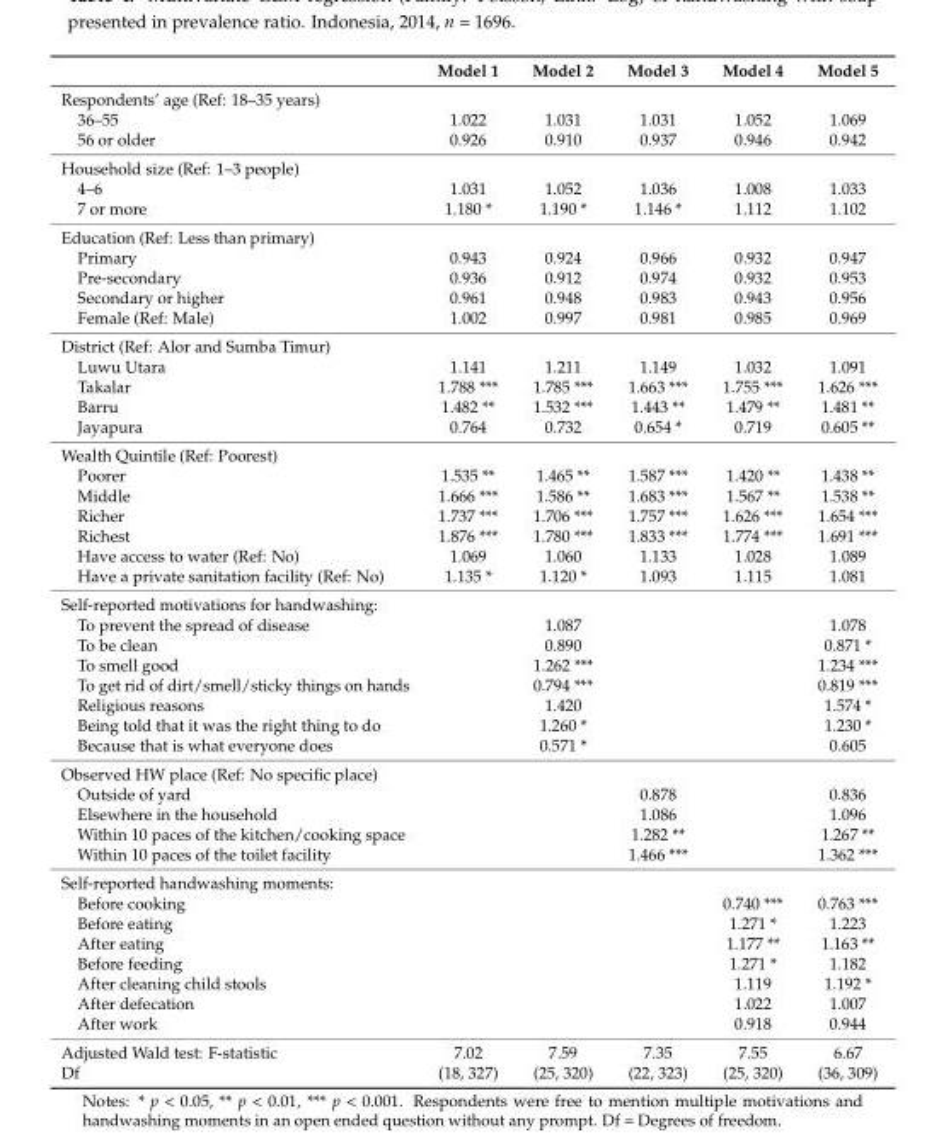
<table><thead><tr><td></td><td>Model 1</td><td>Model 2</td><td>Model 3</td><td>Model 4</td><td>Model 5</td></tr></thead><tbody><tr><td colspan="6">Respondents’ age (Ref: 18–35 years)</td></tr><tr><td>36–55</td><td>1.022</td><td>1.031</td><td>1.031</td><td>1.052</td><td>1.069</td></tr><tr><td>56 or older</td><td>0.926</td><td>0.910</td><td>0.937</td><td>0.946</td><td>0.942</td></tr><tr><td colspan="6">Household size (Ref: 1–3 people)</td></tr><tr><td>4–6</td><td>1.031</td><td>1.052</td><td>1.036</td><td>1.008</td><td>1.033</td></tr><tr><td>7 or more</td><td>1.180 *</td><td>1.190 *</td><td>1.146 *</td><td>1.112</td><td>1.102</td></tr><tr><td colspan="6">Education (Ref: Less than primary)</td></tr><tr><td>Primary</td><td>0.943</td><td>0.924</td><td>0.966</td><td>0.932</td><td>0.947</td></tr><tr><td>Pre-secondary</td><td>0.936</td><td>0.912</td><td>0.974</td><td>0.932</td><td>0.953</td></tr><tr><td>Secondary or higher</td><td>0.961</td><td>0.948</td><td>0.983</td><td>0.943</td><td>0.956</td></tr><tr><td>Female (Ref: Male)</td><td>1.002</td><td>0.997</td><td>0.981</td><td>0.985</td><td>0.969</td></tr><tr><td colspan="6">District (Ref: Alor and Sumba Timur)</td></tr><tr><td>Luwu Utara</td><td>1.141</td><td>1.211</td><td>1.149</td><td>1.032</td><td>1.091</td></tr><tr><td>Takalar</td><td>1.788 ***</td><td>1.785 ***</td><td>1.663 ***</td><td>1.755 ***</td><td>1.626 ***</td></tr><tr><td>Barru</td><td>1.482 **</td><td>1.532 ***</td><td>1.443 **</td><td>1.479 **</td><td>1.481 **</td></tr><tr><td>Jayapura</td><td>0.764</td><td>0.732</td><td>0.654 *</td><td>0.719</td><td>0.605 **</td></tr><tr><td colspan="6">Wealth Quintile (Ref: Poorest)</td></tr><tr><td>Poorer</td><td>1.535 **</td><td>1.465 **</td><td>1.587 ***</td><td>1.420 **</td><td>1.438 **</td></tr><tr><td>Middle</td><td>1.666 ***</td><td>1.586 **</td><td>1.683 ***</td><td>1.567 **</td><td>1.538 **</td></tr><tr><td>Richer</td><td>1.737 ***</td><td>1.706 ***</td><td>1.757 ***</td><td>1.626 ***</td><td>1.654 ***</td></tr><tr><td>Richest</td><td>1.876 ***</td><td>1.780 ***</td><td>1.833 ***</td><td>1.774 ***</td><td>1.691 ***</td></tr><tr><td>Have access to water (Ref: No)</td><td>1.069</td><td>1.060</td><td>1.133</td><td>1.028</td><td>1.089</td></tr><tr><td>Have a private sanitation facility (Ref: No)</td><td>1.135 *</td><td>1.120 *</td><td>1.093</td><td>1.115</td><td>1.081</td></tr><tr><td colspan="6">Self-reported motivations for handwashing:</td></tr><tr><td>To prevent the spread of disease</td><td></td><td>1.087</td><td></td><td></td><td>1.078</td></tr><tr><td>To be clean</td><td></td><td>0.890</td><td></td><td></td><td>0.871 *</td></tr><tr><td>To smell good</td><td></td><td>1.262 ***</td><td></td><td></td><td>1.234 ***</td></tr><tr><td>To get rid of dirt/smell/sticky things on hands</td><td></td><td>0.794 ***</td><td></td><td></td><td>0.819 ***</td></tr><tr><td>Religious reasons</td><td></td><td>1.420</td><td></td><td></td><td>1.574 *</td></tr><tr><td>Being told that it was the right thing to do</td><td></td><td>1.260 *</td><td></td><td></td><td>1.230 *</td></tr><tr><td>Because that is what everyone does</td><td></td><td>0.571 *</td><td></td><td></td><td>0.605</td></tr><tr><td colspan="6">Observed HW place (Ref: No specific place)</td></tr><tr><td>Outside of yard</td><td></td><td></td><td>0.878</td><td></td><td>0.836</td></tr><tr><td>Elsewhere in the household</td><td></td><td></td><td>1.086</td><td></td><td>1.096</td></tr><tr><td>Within 10 paces of the kitchen/cooking space</td><td></td><td></td><td>1.282 **</td><td></td><td>1.267 **</td></tr><tr><td>Within 10 paces of the toilet facility</td><td></td><td></td><td>1.466 ***</td><td></td><td>1.362 ***</td></tr><tr><td colspan="6">Self-reported handwashing moments:</td></tr><tr><td>Before cooking</td><td></td><td></td><td></td><td>0.740 ***</td><td>0.763 ***</td></tr><tr><td>Before eating</td><td></td><td></td><td></td><td>1.271 *</td><td>1.223</td></tr><tr><td>After eating</td><td></td><td></td><td></td><td>1.177 **</td><td>1.163 **</td></tr><tr><td>Before feeding</td><td></td><td></td><td></td><td>1.271 *</td><td>1.182</td></tr><tr><td>After cleaning child stools</td><td></td><td></td><td></td><td>1.119</td><td>1.192 *</td></tr><tr><td>After defecation</td><td></td><td></td><td></td><td>1.022</td><td>1.007</td></tr><tr><td>After work</td><td></td><td></td><td></td><td>0.918</td><td>0.944</td></tr><tr><td>Adjusted Wald test: F-statistic</td><td>7.02</td><td>7.59</td><td>7.35</td><td>7.55</td><td>6.67</td></tr><tr><td>Df</td><td>(18, 327)</td><td>(25, 320)</td><td>(22, 323)</td><td>(25, 320)</td><td>(36, 309)</td></tr></tbody></table>